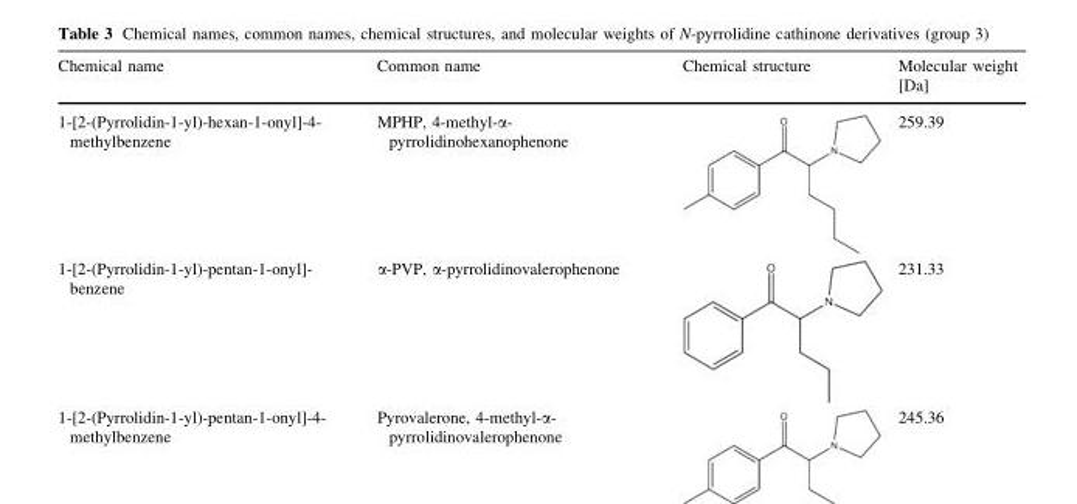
<table><thead><tr><td>Chemical name</td><td>Common name</td><td>Chemical structure</td><td>Molecular weight [Da]</td></tr></thead><tbody><tr><td>1-[2-(Pyrrolidin-1-yl)-hexan-1-onyl]-4- methylbenzene</td><td>MPHP, 4-methyl-α- pyrrolidinohexanophenone</td><td></td><td>259.39</td></tr><tr><td>1-[2-(Pyrrolidin-1-yl)-pentan-1-onyl]- benzene</td><td>α-PVP, α-pyrrolidinovalerophenone</td><td></td><td>231.33</td></tr><tr><td>1-[2-(Pyrrolidin-1-yl)-pentan-1-onyl]-4- methylbenzene</td><td>Pyrovalerone, 4-methyl-α- pyrrolidinovalerophenone</td><td></td><td>245.36</td></tr></tbody></table>